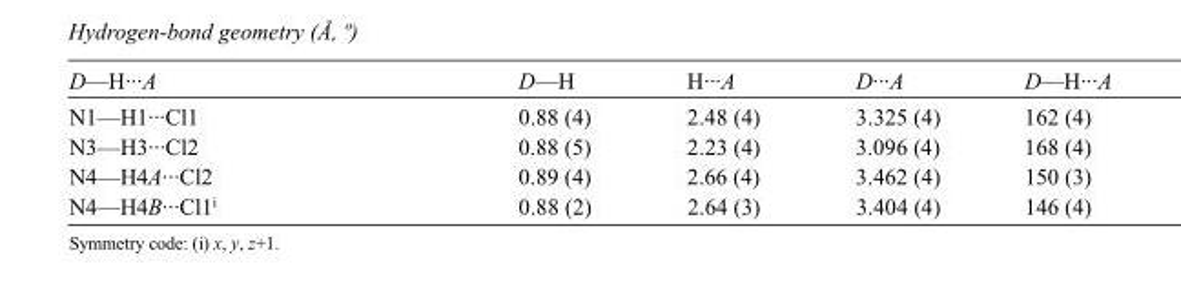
<table><tbody><tr><td>D—H···A</td><td>D—H</td><td>H···A</td><td>D···A</td><td>D—H···A</td></tr><tr><td>N1—H1···Cl1</td><td>0.88 (4)</td><td>2.48 (4)</td><td>3.325 (4)</td><td>162 (4)</td></tr><tr><td>N3—H3···Cl2</td><td>0.88 (5)</td><td>2.23 (4)</td><td>3.096 (4)</td><td>168 (4)</td></tr><tr><td>N4—H4A···Cl2</td><td>0.89 (4)</td><td>2.66 (4)</td><td>3.462 (4)</td><td>150 (3)</td></tr><tr><td>N4—H4B···Cl1<sup>i</sup></td><td>0.88 (2)</td><td>2.64 (3)</td><td>3.404 (4)</td><td>146 (4)</td></tr></tbody></table>